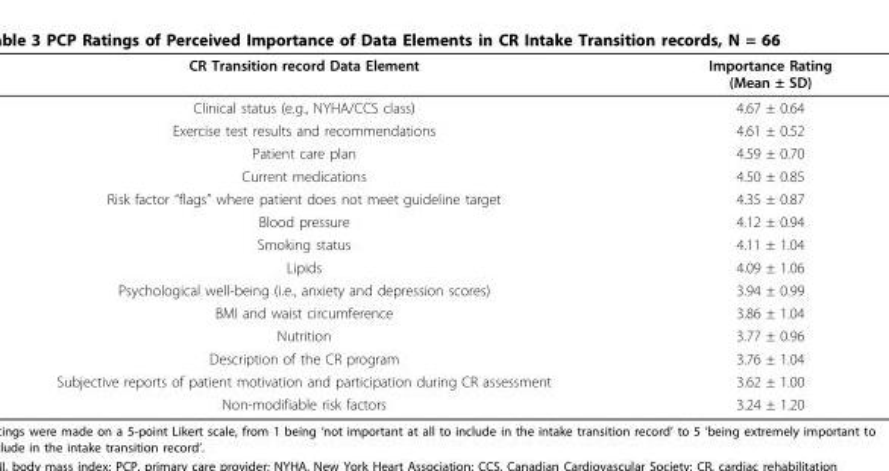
<table><thead><tr><td>CR Transition record Data Element</td><td>Importance Rating (Mean ± SD)</td></tr></thead><tbody><tr><td>Clinical status (e.g., NYHA/CCS class)</td><td>4.67 ± 0.64</td></tr><tr><td>Exercise test results and recommendations</td><td>4.61 ± 0.52</td></tr><tr><td>Patient care plan</td><td>4.59 ± 0.70</td></tr><tr><td>Current medications</td><td>4.50 ± 0.85</td></tr><tr><td>Risk factor “flags” where patient does not meet guideline target</td><td>4.35 ± 0.87</td></tr><tr><td>Blood pressure</td><td>4.12 ± 0.94</td></tr><tr><td>Smoking status</td><td>4.11 ± 1.04</td></tr><tr><td>Lipids</td><td>4.09 ± 1.06</td></tr><tr><td>Psychological well-being (i.e., anxiety and depression scores)</td><td>3.94 ± 0.99</td></tr><tr><td>BMI and waist circumference</td><td>3.86 ± 1.04</td></tr><tr><td>Nutrition</td><td>3.77 ± 0.96</td></tr><tr><td>Description of the CR program</td><td>3.76 ± 1.04</td></tr><tr><td>Subjective reports of patient motivation and participation during CR assessment</td><td>3.62 ± 1.00</td></tr><tr><td>Non-modifiable risk factors</td><td>3.24 ± 1.20</td></tr></tbody></table>